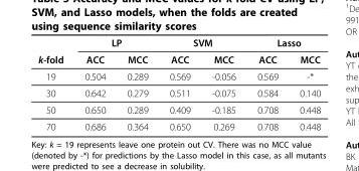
<table><thead><tr><td rowspan="2">k-fold</td><td colspan="2">LP</td><td colspan="2">SVM</td><td colspan="2">Lasso</td></tr><tr><td>ACC</td><td>MCC</td><td>ACC</td><td>MCC</td><td>ACC</td><td>MCC</td></tr></thead><tbody><tr><td>19</td><td>0.504</td><td>0.289</td><td>0.569</td><td>-0.056</td><td>0.569</td><td>-*</td></tr><tr><td>30</td><td>0.642</td><td>0.279</td><td>0.511</td><td>-0.075</td><td>0.584</td><td>0.140</td></tr><tr><td>50</td><td>0.650</td><td>0.289</td><td>0.409</td><td>-0.185</td><td>0.708</td><td>0.448</td></tr><tr><td>70</td><td>0.686</td><td>0.364</td><td>0.650</td><td>0.269</td><td>0.708</td><td>0.448</td></tr></tbody></table>